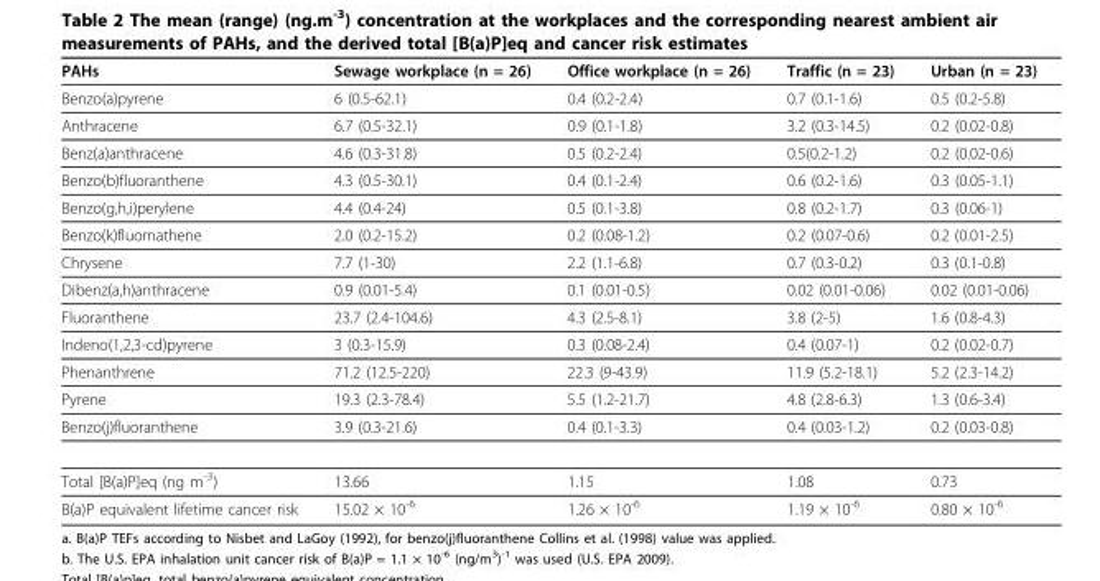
<table><thead><tr><td>PAHs</td><td>Sewage workplace (n = 26)</td><td>Office workplace (n = 26)</td><td>Traffic (n = 23)</td><td>Urban (n = 23)</td></tr></thead><tbody><tr><td>Benzo(a)pyrene</td><td>6 (0.5-62.1)</td><td>0.4 (0.2-2.4)</td><td>0.7 (0.1-1.6)</td><td>0.5 (0.2-5.8)</td></tr><tr><td>Anthracene</td><td>6.7 (0.5-32.1)</td><td>0.9 (0.1-1.8)</td><td>3.2 (0.3-14.5)</td><td>0.2 (0.02-0.8)</td></tr><tr><td>Benz(a)anthracene</td><td>4.6 (0.3-31.8)</td><td>0.5 (0.2-2.4)</td><td>0.5(0.2-1.2)</td><td>0.2 (0.02-0.6)</td></tr><tr><td>Benzo(b)fluoranthene</td><td>4.3 (0.5-30.1)</td><td>0.4 (0.1-2.4)</td><td>0.6 (0.2-1.6)</td><td>0.3 (0.05-1.1)</td></tr><tr><td>Benzo(g,h,i)perylene</td><td>4.4 (0.4-24)</td><td>0.5 (0.1-3.8)</td><td>0.8 (0.2-1.7)</td><td>0.3 (0.06-1)</td></tr><tr><td>Benzo(k)fluornathene</td><td>2.0 (0.2-15.2)</td><td>0.2 (0.08-1.2)</td><td>0.2 (0.07-0.6)</td><td>0.2 (0.01-2.5)</td></tr><tr><td>Chrysene</td><td>7.7 (1-30)</td><td>2.2 (1.1-6.8)</td><td>0.7 (0.3-0.2)</td><td>0.3 (0.1-0.8)</td></tr><tr><td>Dibenz(a,h)anthracene</td><td>0.9 (0.01-5.4)</td><td>0.1 (0.01-0.5)</td><td>0.02 (0.01-0.06)</td><td>0.02 (0.01-0.06)</td></tr><tr><td>Fluoranthene</td><td>23.7 (2.4-104.6)</td><td>4.3 (2.5-8.1)</td><td>3.8 (2-5)</td><td>1.6 (0.8-4.3)</td></tr><tr><td>Indeno(1,2,3-cd)pyrene</td><td>3 (0.3-15.9)</td><td>0.3 (0.08-2.4)</td><td>0.4 (0.07-1)</td><td>0.2 (0.02-0.7)</td></tr><tr><td>Phenanthrene</td><td>71.2 (12.5-220)</td><td>22.3 (9-43.9)</td><td>11.9 (5.2-18.1)</td><td>5.2 (2.3-14.2)</td></tr><tr><td>Pyrene</td><td>19.3 (2.3-78.4)</td><td>5.5 (1.2-21.7)</td><td>4.8 (2.8-6.3)</td><td>1.3 (0.6-3.4)</td></tr><tr><td>Benzo(j)fluoranthene</td><td>3.9 (0.3-21.6)</td><td>0.4 (0.1-3.3)</td><td>0.4 (0.03-1.2)</td><td>0.2 (0.03-0.8)</td></tr><tr><td>Total [B(a)P]eq (ng m-3)</td><td>13.66</td><td>1.15</td><td>1.08</td><td>0.73</td></tr><tr><td>B(a)P equivalent lifetime cancer risk</td><td>15.02 × 10-6</td><td>1.26 × 10-6</td><td>1.19 × 10-6</td><td>0.80 × 10-6</td></tr></tbody></table>